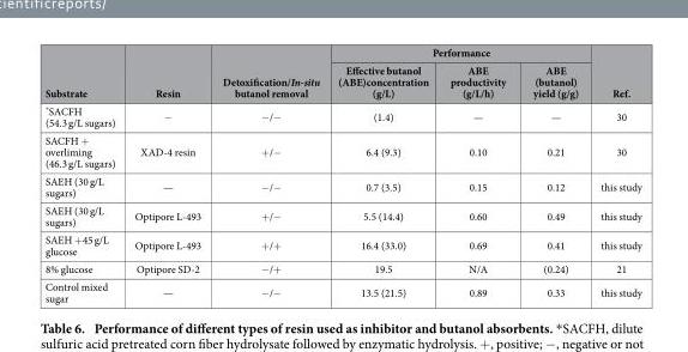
<table><thead><tr><td rowspan="2">Substrate</td><td rowspan="2">Resin</td><td rowspan="2">Detoxification/In-situ butanol removal</td><td colspan="3">Performance</td><td rowspan="2">Ref.</td></tr><tr><td>Effective butanol (ABE)concentration (g/L)</td><td>ABE productivity (g/L/h)</td><td>ABE (butanol) yield (g/g)</td></tr></thead><tbody><tr><td>*SACFH (54.3 g/L sugars)</td><td>−</td><td>− /−</td><td>(1.4)</td><td>—</td><td>—</td><td>30</td></tr><tr><td>SACFH + overliming (46.3 g/L sugars)</td><td>XAD-4 resin</td><td>+ /−</td><td>6.4 (9.3)</td><td>0.10</td><td>0.21</td><td>30</td></tr><tr><td>SAEH (30 g/L sugars)</td><td>—</td><td>− /−</td><td>0.7 (3.5)</td><td>0.15</td><td>0.12</td><td>this study</td></tr><tr><td>SAEH (30 g/L sugars)</td><td>Optipore L-493</td><td>+ /−</td><td>5.5 (14.4)</td><td>0.60</td><td>0.49</td><td>this study</td></tr><tr><td>SAEH + 45 g/L glucose</td><td>Optipore L-493</td><td>+ /+</td><td>16.4 (33.0)</td><td>0.69</td><td>0.41</td><td>this study</td></tr><tr><td>8% glucose</td><td>Optipore SD-2</td><td>− /+</td><td>19.5</td><td>N/A</td><td>(0.24)</td><td>21</td></tr><tr><td>Control mixed sugar</td><td>—</td><td>− /−</td><td>13.5 (21.5)</td><td>0.89</td><td>0.33</td><td>this study</td></tr></tbody></table>